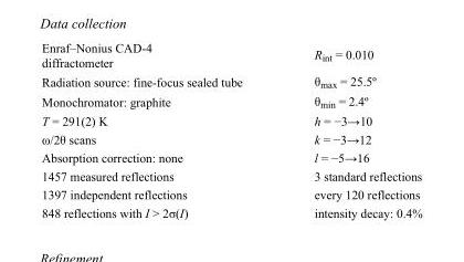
<table><tbody><tr><td>Enraf–Nonius CAD-4 diffractometer</td><td>R<sub>int</sub> = 0.010</td></tr><tr><td>Radiation source: fine-focus sealed tube</td><td>θ<sub>max</sub> = 25.5º</td></tr><tr><td>Monochromator: graphite</td><td>θ<sub>min</sub> = 2.4º</td></tr><tr><td>T = 291(2) K</td><td>h = −3→10</td></tr><tr><td>ω/2θ scans</td><td>k = −3→12</td></tr><tr><td>Absorption correction: none</td><td>l = −5→16</td></tr><tr><td>1457 measured reflections</td><td>3 standard reflections</td></tr><tr><td>1397 independent reflections</td><td>every 120 reflections</td></tr><tr><td>848 reflections with I &gt; 2σ(I)</td><td>intensity decay: 0.4%</td></tr></tbody></table>